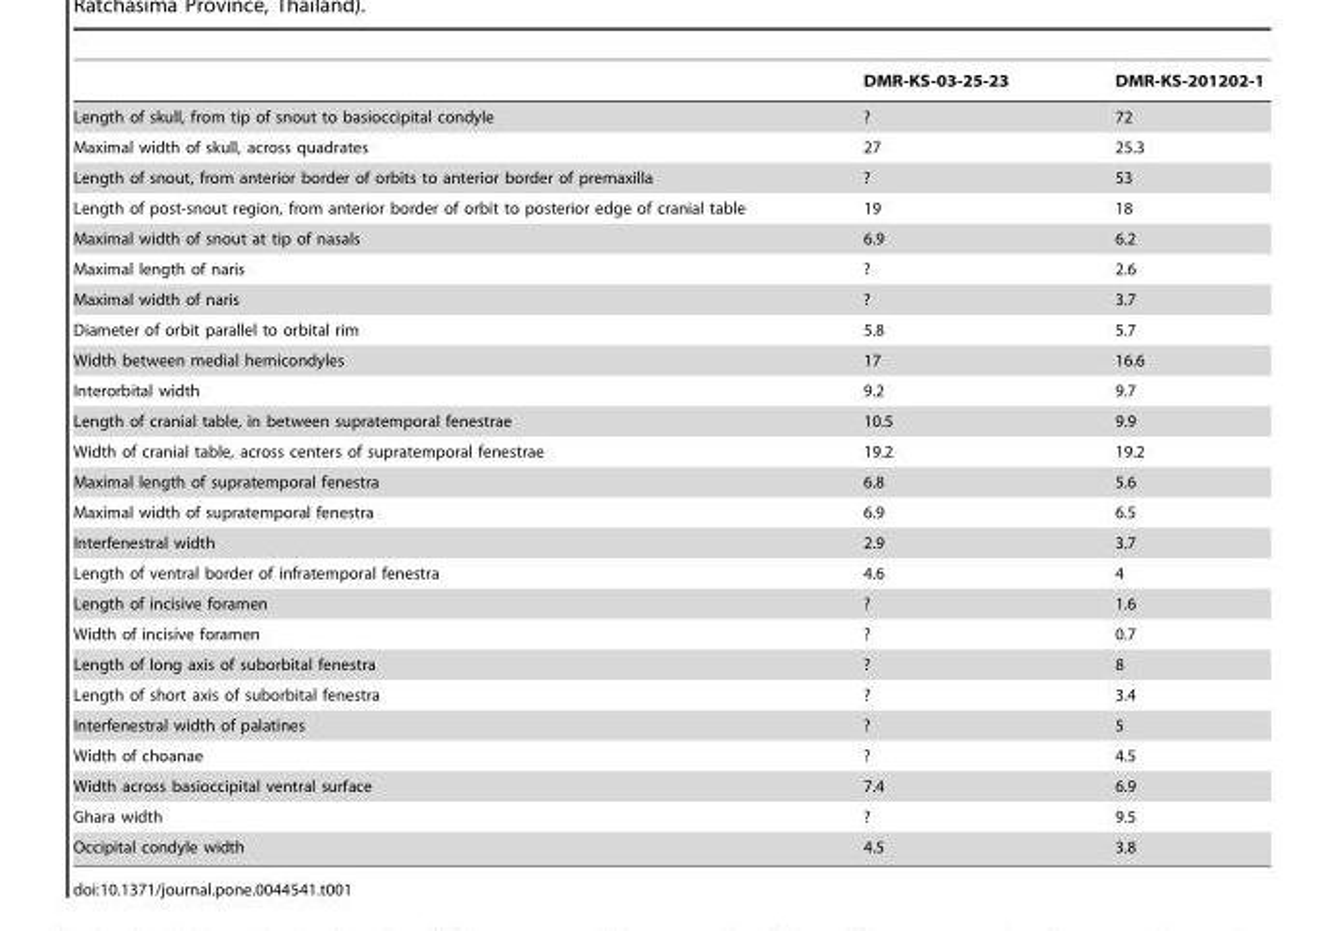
<table><thead><tr><td></td><td>DMR-KS-03-25-23</td><td>DMR-KS-201202-1</td></tr></thead><tbody><tr><td>Length of skull, from tip of snout to basioccipital condyle</td><td>?</td><td>72</td></tr><tr><td>Maximal width of skull, across quadrates</td><td>27</td><td>25.3</td></tr><tr><td>Length of snout, from anterior border of orbits to anterior border of premaxilla</td><td>?</td><td>53</td></tr><tr><td>Length of post-snout region, from anterior border of orbit to posterior edge of cranial table</td><td>19</td><td>18</td></tr><tr><td>Maximal width of snout at tip of nasals</td><td>6.9</td><td>6.2</td></tr><tr><td>Maximal length of naris</td><td>?</td><td>2.6</td></tr><tr><td>Maximal width of naris</td><td>?</td><td>3.7</td></tr><tr><td>Diameter of orbit parallel to orbital rim</td><td>5.8</td><td>5.7</td></tr><tr><td>Width between medial hemicondyles</td><td>17</td><td>16.6</td></tr><tr><td>Interorbital width</td><td>9.2</td><td>9.7</td></tr><tr><td>Length of cranial table, in between supratemporal fenestrae</td><td>10.5</td><td>9.9</td></tr><tr><td>Width of cranial table, across centers of supratemporal fenestrae</td><td>19.2</td><td>19.2</td></tr><tr><td>Maximal length of supratemporal fenestra</td><td>6.8</td><td>5.6</td></tr><tr><td>Maximal width of supratemporal fenestra</td><td>6.9</td><td>6.5</td></tr><tr><td>Interfenestral width</td><td>2.9</td><td>3.7</td></tr><tr><td>Length of ventral border of infratemporal fenestra</td><td>4.6</td><td>4</td></tr><tr><td>Length of incisive foramen</td><td>?</td><td>1.6</td></tr><tr><td>Width of incisive foramen</td><td>?</td><td>0.7</td></tr><tr><td>Length of long axis of suborbital fenestra</td><td>?</td><td>8</td></tr><tr><td>Length of short axis of suborbital fenestra</td><td>?</td><td>3.4</td></tr><tr><td>Interfenestral width of palatines</td><td>?</td><td>5</td></tr><tr><td>Width of choanae</td><td>?</td><td>4.5</td></tr><tr><td>Width across basioccipital ventral surface</td><td>7.4</td><td>6.9</td></tr><tr><td>Ghara width</td><td>?</td><td>9.5</td></tr><tr><td>Occipital condyle width</td><td>4.5</td><td>3.8</td></tr></tbody></table>